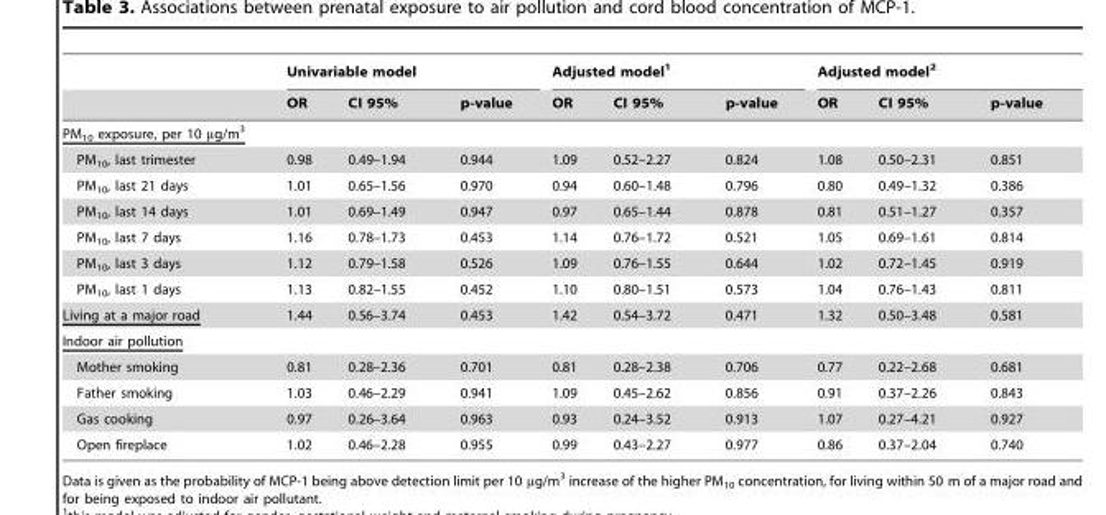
<table><thead><tr><td rowspan="2"></td><td colspan="3">Univariable model</td><td colspan="3">Adjusted model<sup>1</sup></td><td colspan="3">Adjusted model<sup>2</sup></td></tr><tr><td>OR</td><td>CI 95%</td><td>p-value</td><td>OR</td><td>CI 95%</td><td>p-value</td><td>OR</td><td>CI 95%</td><td>p-value</td></tr></thead><tbody><tr><td colspan="10">PM<sub>10</sub> exposure, per 10 µg/m<sup>3</sup></td></tr><tr><td>PM<sub>10</sub>, last trimester</td><td>0.98</td><td>0.49–1.94</td><td>0.944</td><td>1.09</td><td>0.52–2.27</td><td>0.824</td><td>1.08</td><td>0.50–2.31</td><td>0.851</td></tr><tr><td>PM<sub>10</sub>, last 21 days</td><td>1.01</td><td>0.65–1.56</td><td>0.970</td><td>0.94</td><td>0.60–1.48</td><td>0.796</td><td>0.80</td><td>0.49–1.32</td><td>0.386</td></tr><tr><td>PM<sub>10</sub>, last 14 days</td><td>1.01</td><td>0.69–1.49</td><td>0.947</td><td>0.97</td><td>0.65–1.44</td><td>0.878</td><td>0.81</td><td>0.51–1.27</td><td>0.357</td></tr><tr><td>PM<sub>10</sub>, last 7 days</td><td>1.16</td><td>0.78–1.73</td><td>0.453</td><td>1.14</td><td>0.76–1.72</td><td>0.521</td><td>1.05</td><td>0.69–1.61</td><td>0.814</td></tr><tr><td>PM<sub>10</sub>, last 3 days</td><td>1.12</td><td>0.79–1.58</td><td>0.526</td><td>1.09</td><td>0.76–1.55</td><td>0.644</td><td>1.02</td><td>0.72–1.45</td><td>0.919</td></tr><tr><td>PM<sub>10</sub>, last 1 days</td><td>1.13</td><td>0.82–1.55</td><td>0.452</td><td>1.10</td><td>0.80–1.51</td><td>0.573</td><td>1.04</td><td>0.76–1.43</td><td>0.811</td></tr><tr><td>Living at a major road</td><td>1.44</td><td>0.56–3.74</td><td>0.453</td><td>1.42</td><td>0.54–3.72</td><td>0.471</td><td>1.32</td><td>0.50–3.48</td><td>0.581</td></tr><tr><td colspan="10">Indoor air pollution</td></tr><tr><td>Mother smoking</td><td>0.81</td><td>0.28–2.36</td><td>0.701</td><td>0.81</td><td>0.28–2.38</td><td>0.706</td><td>0.77</td><td>0.22–2.68</td><td>0.681</td></tr><tr><td>Father smoking</td><td>1.03</td><td>0.46–2.29</td><td>0.941</td><td>1.09</td><td>0.45–2.62</td><td>0.856</td><td>0.91</td><td>0.37–2.26</td><td>0.843</td></tr><tr><td>Gas cooking</td><td>0.97</td><td>0.26–3.64</td><td>0.963</td><td>0.93</td><td>0.24–3.52</td><td>0.913</td><td>1.07</td><td>0.27–4.21</td><td>0.927</td></tr><tr><td>Open fireplace</td><td>1.02</td><td>0.46–2.28</td><td>0.955</td><td>0.99</td><td>0.43–2.27</td><td>0.977</td><td>0.86</td><td>0.37–2.04</td><td>0.740</td></tr></tbody></table>